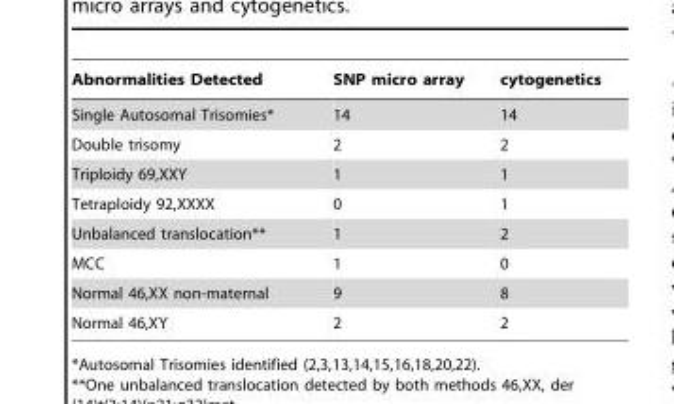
<table><thead><tr><td>Abnormalities Detected</td><td>SNP micro array</td><td>cytogenetics</td></tr></thead><tbody><tr><td>Single Autosomal Trisomies*</td><td>14</td><td>14</td></tr><tr><td>Double trisomy</td><td>2</td><td>2</td></tr><tr><td>Triploidy 69,XXY</td><td>1</td><td>1</td></tr><tr><td>Tetraploidy 92,XXXX</td><td>0</td><td>1</td></tr><tr><td>Unbalanced translocation**</td><td>1</td><td>2</td></tr><tr><td>MCC</td><td>1</td><td>0</td></tr><tr><td>Normal 46,XX non-maternal</td><td>9</td><td>8</td></tr><tr><td>Normal 46,XY</td><td>2</td><td>2</td></tr></tbody></table>